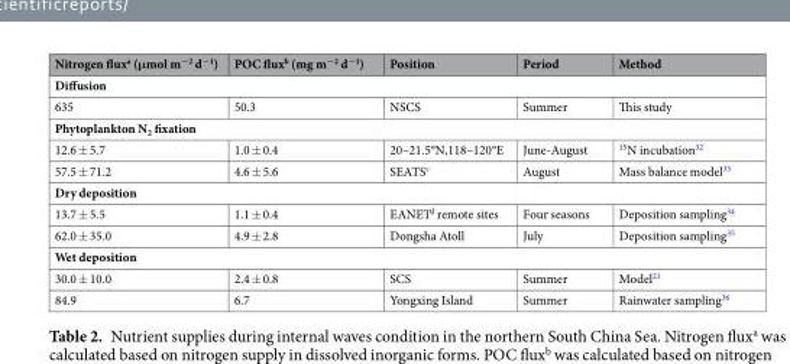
<table><thead><tr><td>Nitrogen flux<sup>a</sup> (μmol m<sup>−2</sup> d<sup>−1</sup>)</td><td>POC flux<sup>b</sup> (mg m<sup>−2</sup> d<sup>−1</sup>)</td><td>Position</td><td>Period</td><td>Method</td></tr></thead><tbody><tr><td colspan="5">Diffusion</td></tr><tr><td>635</td><td>50.3</td><td>NSCS</td><td>Summer</td><td>This study</td></tr><tr><td colspan="5">Phytoplankton N<sub>2</sub> fixation</td></tr><tr><td>12.6 ± 5.7</td><td>1.0 ± 0.4</td><td>20–21.5°N,118–120°E</td><td>June-August</td><td><sup>15</sup>N incubation<sup>32</sup></td></tr><tr><td>57.5 ± 71.2</td><td>4.6 ± 5.6</td><td>SEATS<sup>c</sup></td><td>August</td><td>Mass balance model<sup>33</sup></td></tr><tr><td colspan="5">Dry deposition</td></tr><tr><td>13.7 ± 5.5</td><td>1.1 ± 0.4</td><td>EANET<sup>d</sup> remote sites</td><td>Four seasons</td><td>Deposition sampling<sup>34</sup></td></tr><tr><td>62.0 ± 35.0</td><td>4.9 ± 2.8</td><td>Dongsha Atoll</td><td>July</td><td>Deposition sampling<sup>35</sup></td></tr><tr><td colspan="5">Wet deposition</td></tr><tr><td>30.0 ± 10.0</td><td>2.4 ± 0.8</td><td>SCS</td><td>Summer</td><td>Model<sup>21</sup></td></tr><tr><td>84.9</td><td>6.7</td><td>Yongxing Island</td><td>Summer</td><td>Rainwater sampling<sup>36</sup></td></tr></tbody></table>